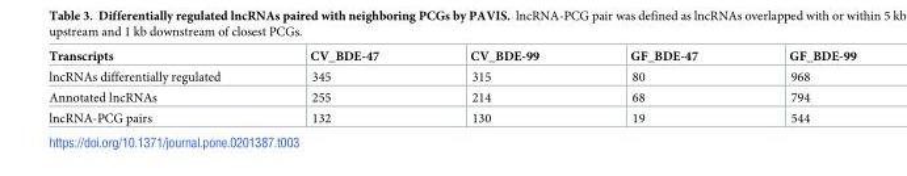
<table><thead><tr><td>Transcripts</td><td>CV_BDE-47</td><td>CV_BDE-99</td><td>GF_BDE-47</td><td>GF_BDE-99</td></tr></thead><tbody><tr><td>lncRNAs differentially regulated</td><td>345</td><td>315</td><td>80</td><td>968</td></tr><tr><td>Annotated lncRNAs</td><td>255</td><td>214</td><td>68</td><td>794</td></tr><tr><td>lncRNA-PCG pairs</td><td>132</td><td>130</td><td>19</td><td>544</td></tr></tbody></table>